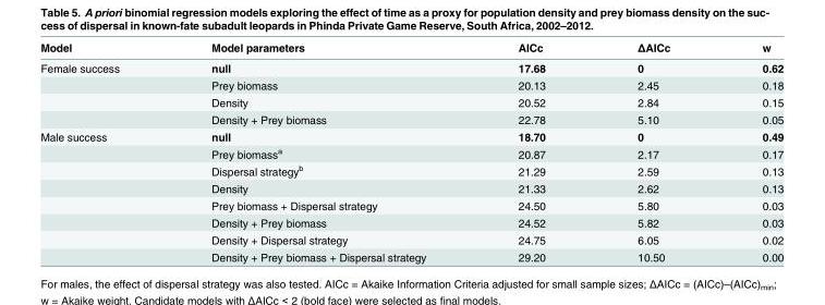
<table><thead><tr><td>Model</td><td>Model parameters</td><td>AICc</td><td>ΔAICc</td><td>w</td></tr></thead><tbody><tr><td rowspan="4">Female success</td><td>null</td><td>17.68</td><td>0</td><td>0.62</td></tr><tr><td>Prey biomass</td><td>20.13</td><td>2.45</td><td>0.18</td></tr><tr><td>Density</td><td>20.52</td><td>2.84</td><td>0.15</td></tr><tr><td>Density + Prey biomass</td><td>22.78</td><td>5.10</td><td>0.05</td></tr><tr><td rowspan="8">Male success</td><td>null</td><td>18.70</td><td>0</td><td>0.49</td></tr><tr><td>Prey biomass<sup>a</sup></td><td>20.87</td><td>2.17</td><td>0.17</td></tr><tr><td>Dispersal strategy<sup>b</sup></td><td>21.29</td><td>2.59</td><td>0.13</td></tr><tr><td>Density</td><td>21.33</td><td>2.62</td><td>0.13</td></tr><tr><td>Prey biomass + Dispersal strategy</td><td>24.50</td><td>5.80</td><td>0.03</td></tr><tr><td>Density + Prey biomass</td><td>24.52</td><td>5.82</td><td>0.03</td></tr><tr><td>Density + Dispersal strategy</td><td>24.75</td><td>6.05</td><td>0.02</td></tr><tr><td>Density + Prey biomass + Dispersal strategy</td><td>29.20</td><td>10.50</td><td>0.00</td></tr></tbody></table>